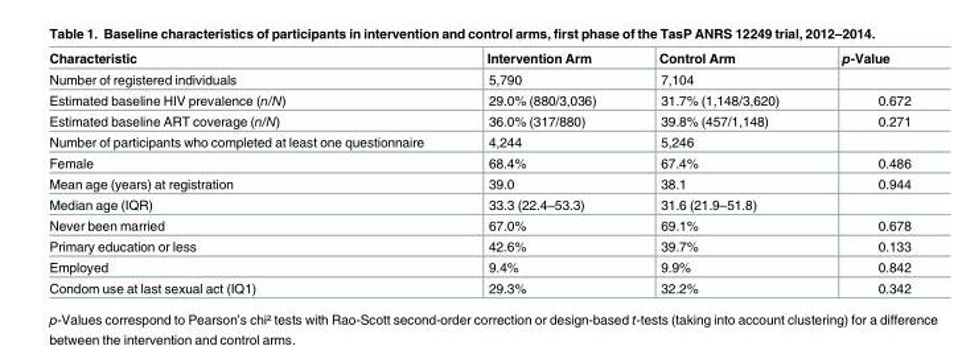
<table><thead><tr><td>Characteristic</td><td>Intervention Arm</td><td>Control Arm</td><td>p-Value</td></tr></thead><tbody><tr><td>Number of registered individuals</td><td>5,790</td><td>7,104</td><td></td></tr><tr><td>Estimated baseline HIV prevalence (n/N)</td><td>29.0% (880/3,036)</td><td>31.7% (1,148/3,620)</td><td>0.672</td></tr><tr><td>Estimated baseline ART coverage (n/N)</td><td>36.0% (317/880)</td><td>39.8% (457/1,148)</td><td>0.271</td></tr><tr><td>Number of participants who completed at least one questionnaire</td><td>4,244</td><td>5,246</td><td></td></tr><tr><td>Female</td><td>68.4%</td><td>67.4%</td><td>0.486</td></tr><tr><td>Mean age (years) at registration</td><td>39.0</td><td>38.1</td><td>0.944</td></tr><tr><td>Median age (IQR)</td><td>33.3 (22.4–53.3)</td><td>31.6 (21.9–51.8)</td><td></td></tr><tr><td>Never been married</td><td>67.0%</td><td>69.1%</td><td>0.678</td></tr><tr><td>Primary education or less</td><td>42.6%</td><td>39.7%</td><td>0.133</td></tr><tr><td>Employed</td><td>9.4%</td><td>9.9%</td><td>0.842</td></tr><tr><td>Condom use at last sexual act (IQ1)</td><td>29.3%</td><td>32.2%</td><td>0.342</td></tr></tbody></table>